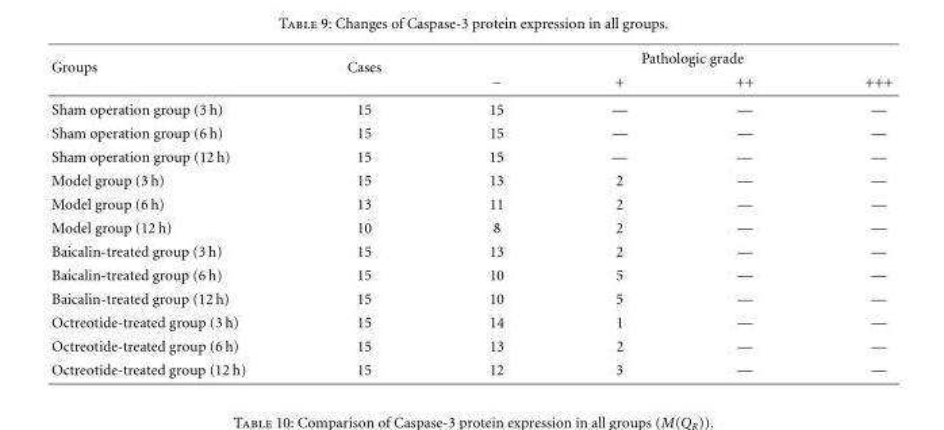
<table><thead><tr><td rowspan="2">Groups</td><td rowspan="2">Cases</td><td colspan="4">Pathologic grade</td></tr><tr><td>−</td><td>+</td><td>++</td><td>+++</td></tr></thead><tbody><tr><td>Sham operation group (3 h)</td><td>15</td><td>15</td><td>—</td><td>—</td><td>—</td></tr><tr><td>Sham operation group (6 h)</td><td>15</td><td>15</td><td>—</td><td>—</td><td>—</td></tr><tr><td>Sham operation group (12 h)</td><td>15</td><td>15</td><td>—</td><td>—</td><td>—</td></tr><tr><td>Model group (3 h)</td><td>15</td><td>13</td><td>2</td><td>—</td><td>—</td></tr><tr><td>Model group (6 h)</td><td>13</td><td>11</td><td>2</td><td>—</td><td>—</td></tr><tr><td>Model group (12 h)</td><td>10</td><td>8</td><td>2</td><td>—</td><td>—</td></tr><tr><td>Baicalin-treated group (3 h)</td><td>15</td><td>13</td><td>2</td><td>—</td><td>—</td></tr><tr><td>Baicalin-treated group (6 h)</td><td>15</td><td>10</td><td>5</td><td>—</td><td>—</td></tr><tr><td>Baicalin-treated group (12 h)</td><td>15</td><td>10</td><td>5</td><td>—</td><td>—</td></tr><tr><td>Octreotide-treated group (3 h)</td><td>15</td><td>14</td><td>1</td><td>—</td><td>—</td></tr><tr><td>Octreotide-treated group (6 h)</td><td>15</td><td>13</td><td>2</td><td>—</td><td>—</td></tr><tr><td>Octreotide-treated group (12 h)</td><td>15</td><td>12</td><td>3</td><td>—</td><td>—</td></tr></tbody></table>